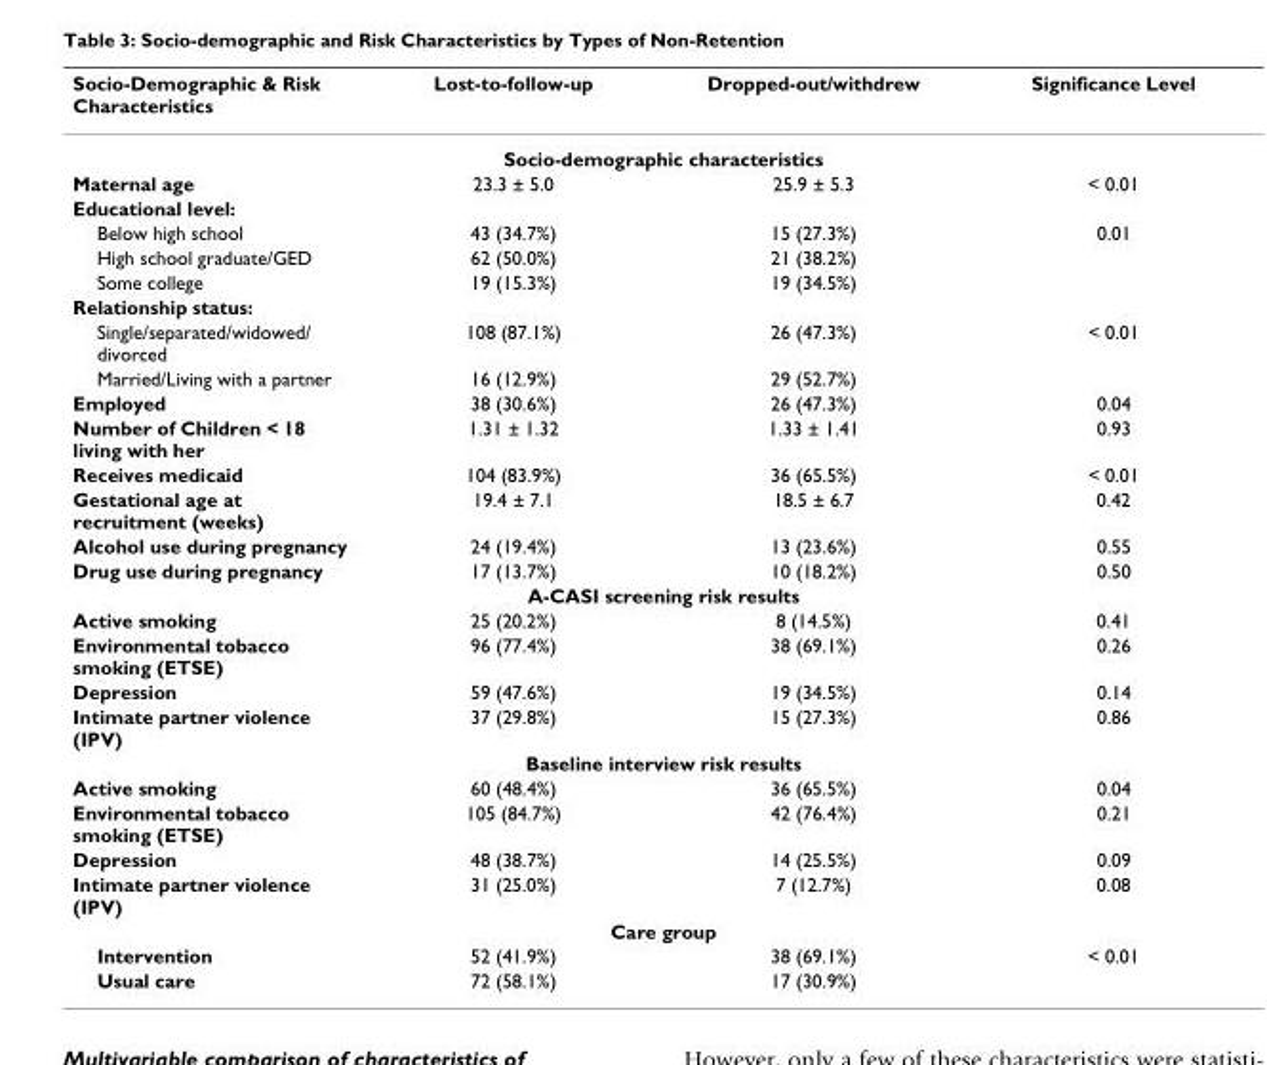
<table><thead><tr><td>Socio-Demographic &amp; Risk Characteristics</td><td>Lost-to-follow-up</td><td>Dropped-out/withdrew</td><td>Significance Level</td></tr></thead><tbody><tr><td colspan="4">Socio-demographic characteristics</td></tr><tr><td>Maternal age</td><td>23.3 ± 5.0</td><td>25.9 ± 5.3</td><td>&lt; 0.01</td></tr><tr><td colspan="4">Educational level:</td></tr><tr><td>Below high school</td><td>43 (34.7%)</td><td>15 (27.3%)</td><td>0.01</td></tr><tr><td>High school graduate/GED</td><td>62 (50.0%)</td><td>21 (38.2%)</td><td></td></tr><tr><td>Some college</td><td>19 (15.3%)</td><td>19 (34.5%)</td><td></td></tr><tr><td colspan="4">Relationship status:</td></tr><tr><td>Single/separated/widowed/ divorced</td><td>108 (87.1%)</td><td>26 (47.3%)</td><td>&lt; 0.01</td></tr><tr><td>Married/Living with a partner</td><td>16 (12.9%)</td><td>29 (52.7%)</td><td></td></tr><tr><td>Employed</td><td>38 (30.6%)</td><td>26 (47.3%)</td><td>0.04</td></tr><tr><td>Number of Children &lt; 18 living with her</td><td>1.31 ± 1.32</td><td>1.33 ± 1.41</td><td>0.93</td></tr><tr><td>Receives medicaid</td><td>104 (83.9%)</td><td>36 (65.5%)</td><td>&lt; 0.01</td></tr><tr><td>Gestational age at recruitment (weeks)</td><td>19.4 ± 7.1</td><td>18.5 ± 6.7</td><td>0.42</td></tr><tr><td>Alcohol use during pregnancy</td><td>24 (19.4%)</td><td>13 (23.6%)</td><td>0.55</td></tr><tr><td>Drug use during pregnancy</td><td>17 (13.7%)</td><td>10 (18.2%)</td><td>0.50</td></tr><tr><td colspan="4">A-CASI screening risk results</td></tr><tr><td>Active smoking</td><td>25 (20.2%)</td><td>8 (14.5%)</td><td>0.41</td></tr><tr><td>Environmental tobacco smoking (ETSE)</td><td>96 (77.4%)</td><td>38 (69.1%)</td><td>0.26</td></tr><tr><td>Depression</td><td>59 (47.6%)</td><td>19 (34.5%)</td><td>0.14</td></tr><tr><td>Intimate partner violence (IPV)</td><td>37 (29.8%)</td><td>15 (27.3%)</td><td>0.86</td></tr><tr><td colspan="4">Baseline interview risk results</td></tr><tr><td>Active smoking</td><td>60 (48.4%)</td><td>36 (65.5%)</td><td>0.04</td></tr><tr><td>Environmental tobacco smoking (ETSE)</td><td>105 (84.7%)</td><td>42 (76.4%)</td><td>0.21</td></tr><tr><td>Depression</td><td>48 (38.7%)</td><td>14 (25.5%)</td><td>0.09</td></tr><tr><td>Intimate partner violence (IPV)</td><td>31 (25.0%)</td><td>7 (12.7%)</td><td>0.08</td></tr><tr><td colspan="4">Care group</td></tr><tr><td>Intervention</td><td>52 (41.9%)</td><td>38 (69.1%)</td><td>&lt; 0.01</td></tr><tr><td>Usual care</td><td>72 (58.1%)</td><td>17 (30.9%)</td><td></td></tr></tbody></table>